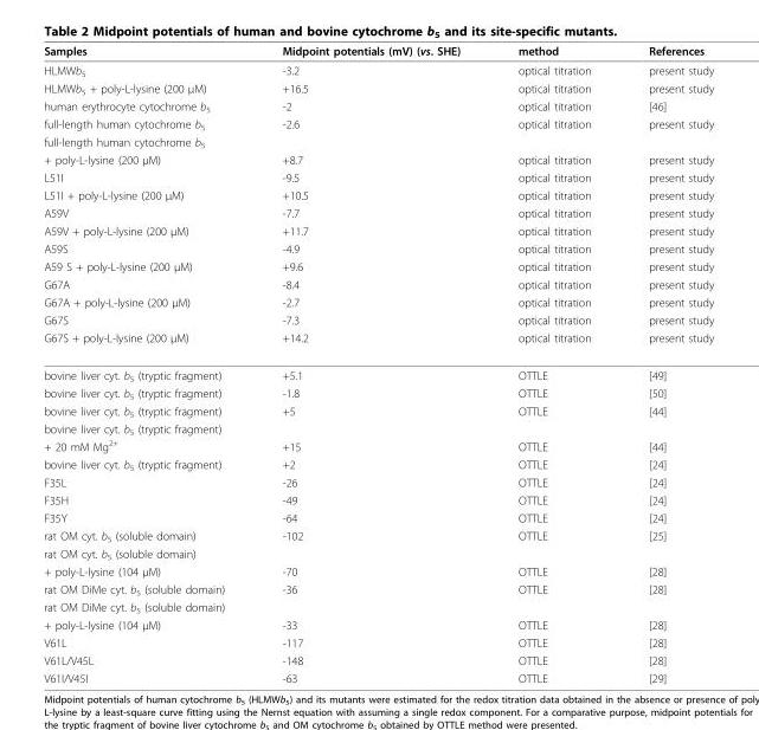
<table><thead><tr><td>Samples</td><td>Midpoint potentials (mV) (vs. SHE)</td><td>method</td><td>References</td></tr></thead><tbody><tr><td>HLMWb<sub>5</sub></td><td>-3.2</td><td>optical titration</td><td>present study</td></tr><tr><td>HLMWb<sub>5</sub> + poly-L-lysine (200 μM)</td><td>+16.5</td><td>optical titration</td><td>present study</td></tr><tr><td>human erythrocyte cytochrome b<sub>5</sub></td><td>-2</td><td>optical titration</td><td>[46]</td></tr><tr><td>full-length human cytochrome b<sub>5</sub></td><td>-2.6</td><td>optical titration</td><td>present study</td></tr><tr><td colspan="4">full-length human cytochrome b<sub>5</sub></td></tr><tr><td>+ poly-L-lysine (200 μM)</td><td>+8.7</td><td>optical titration</td><td>present study</td></tr><tr><td>L51I</td><td>-9.5</td><td>optical titration</td><td>present study</td></tr><tr><td>L51I + poly-L-lysine (200 μM)</td><td>+10.5</td><td>optical titration</td><td>present study</td></tr><tr><td>A59V</td><td>-7.7</td><td>optical titration</td><td>present study</td></tr><tr><td>A59V + poly-L-lysine (200 μM)</td><td>+11.7</td><td>optical titration</td><td>present study</td></tr><tr><td>A59S</td><td>-4.9</td><td>optical titration</td><td>present study</td></tr><tr><td>A59 S + poly-L-lysine (200 μM)</td><td>+9.6</td><td>optical titration</td><td>present study</td></tr><tr><td>G67A</td><td>-8.4</td><td>optical titration</td><td>present study</td></tr><tr><td>G67A + poly-L-lysine (200 μM)</td><td>-2.7</td><td>optical titration</td><td>present study</td></tr><tr><td>G67S</td><td>-7.3</td><td>optical titration</td><td>present study</td></tr><tr><td>G67S + poly-L-lysine (200 μM)</td><td>+14.2</td><td>optical titration</td><td>present study</td></tr><tr><td>bovine liver cyt. b<sub>5</sub> (tryptic fragment)</td><td>+5.1</td><td>OTTLE</td><td>[49]</td></tr><tr><td>bovine liver cyt. b<sub>5</sub> (tryptic fragment)</td><td>-1.8</td><td>OTTLE</td><td>[50]</td></tr><tr><td>bovine liver cyt. b<sub>5</sub> (tryptic fragment)</td><td>+5</td><td>OTTLE</td><td>[44]</td></tr><tr><td colspan="4">bovine liver cyt. b<sub>5</sub> (tryptic fragment)</td></tr><tr><td>+ 20 mM Mg<sup>2+</sup></td><td>+15</td><td>OTTLE</td><td>[44]</td></tr><tr><td>bovine liver cyt. b<sub>5</sub> (tryptic fragment)</td><td>+2</td><td>OTTLE</td><td>[24]</td></tr><tr><td>F35L</td><td>-26</td><td>OTTLE</td><td>[24]</td></tr><tr><td>F35H</td><td>-49</td><td>OTTLE</td><td>[24]</td></tr><tr><td>F35Y</td><td>-64</td><td>OTTLE</td><td>[24]</td></tr><tr><td>rat OM cyt. b<sub>5</sub> (soluble domain)</td><td>-102</td><td>OTTLE</td><td>[25]</td></tr><tr><td colspan="4">rat OM cyt. b<sub>5</sub> (soluble domain)</td></tr><tr><td>+ poly-L-lysine (104 μM)</td><td>-70</td><td>OTTLE</td><td>[28]</td></tr><tr><td>rat OM DiMe cyt. b<sub>5</sub> (soluble domain)</td><td>-36</td><td>OTTLE</td><td>[28]</td></tr><tr><td colspan="4">rat OM DiMe cyt. b<sub>5</sub> (soluble domain)</td></tr><tr><td>+ poly-L-lysine (104 μM)</td><td>-33</td><td>OTTLE</td><td>[28]</td></tr><tr><td>V61L</td><td>-117</td><td>OTTLE</td><td>[28]</td></tr><tr><td>V61L/V45L</td><td>-148</td><td>OTTLE</td><td>[28]</td></tr><tr><td>V61I/V45I</td><td>-63</td><td>OTTLE</td><td>[29]</td></tr></tbody></table>